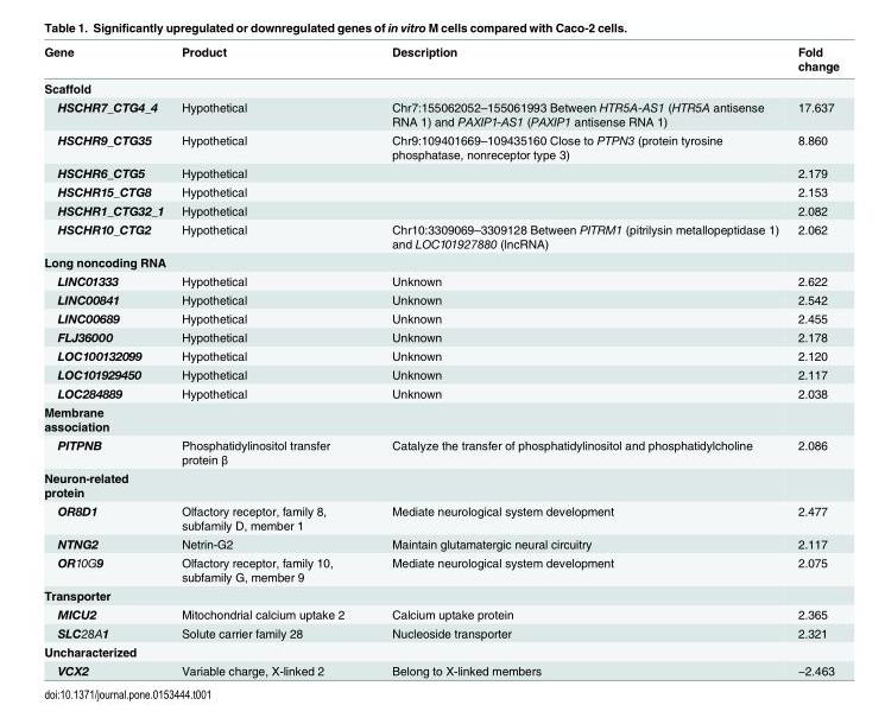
<table><thead><tr><td>Gene</td><td>Product</td><td>Description</td><td>Fold change</td></tr></thead><tbody><tr><td colspan="4">Scaffold</td></tr><tr><td>HSCHR7_CTG4_4</td><td>Hypothetical</td><td>Chr7:155062052–155061993 Between HTR5A-AS1 (HTR5A antisense RNA 1) and PAXIP1-AS1 (PAXIP1 antisense RNA 1)</td><td>17.637</td></tr><tr><td>HSCHR9_CTG35</td><td>Hypothetical</td><td>Chr9:109401669–109435160 Close to PTPN3 (protein tyrosine phosphatase, nonreceptor type 3)</td><td>8.860</td></tr><tr><td>HSCHR6_CTG5</td><td>Hypothetical</td><td></td><td>2.179</td></tr><tr><td>HSCHR15_CTG8</td><td>Hypothetical</td><td></td><td>2.153</td></tr><tr><td>HSCHR1_CTG32_1</td><td>Hypothetical</td><td></td><td>2.082</td></tr><tr><td>HSCHR10_CTG2</td><td>Hypothetical</td><td>Chr10:3309069–3309128 Between PITRM1 (pitrilysin metallopeptidase 1) and LOC101927880 (lncRNA)</td><td>2.062</td></tr><tr><td colspan="4">Long noncoding RNA</td></tr><tr><td>LINC01333</td><td>Hypothetical</td><td>Unknown</td><td>2.622</td></tr><tr><td>LINC00841</td><td>Hypothetical</td><td>Unknown</td><td>2.542</td></tr><tr><td>LINC00689</td><td>Hypothetical</td><td>Unknown</td><td>2.455</td></tr><tr><td>FLJ36000</td><td>Hypothetical</td><td>Unknown</td><td>2.178</td></tr><tr><td>LOC100132099</td><td>Hypothetical</td><td>Unknown</td><td>2.120</td></tr><tr><td>LOC101929450</td><td>Hypothetical</td><td>Unknown</td><td>2.117</td></tr><tr><td>LOC284889</td><td>Hypothetical</td><td>Unknown</td><td>2.038</td></tr><tr><td colspan="4">Membrane association</td></tr><tr><td>PITPNB</td><td>Phosphatidylinositol transfer protein β</td><td>Catalyze the transfer of phosphatidylinositol and phosphatidylcholine</td><td>2.086</td></tr><tr><td colspan="4">Neuron-related protein</td></tr><tr><td>OR8D1</td><td>Olfactory receptor, family 8, subfamily D, member 1</td><td>Mediate neurological system development</td><td>2.477</td></tr><tr><td>NTNG2</td><td>Netrin-G2</td><td>Maintain glutamatergic neural circuitry</td><td>2.117</td></tr><tr><td>OR10G9</td><td>Olfactory receptor, family 10, subfamily G, member 9</td><td>Mediate neurological system development</td><td>2.075</td></tr><tr><td colspan="4">Transporter</td></tr><tr><td>MICU2</td><td>Mitochondrial calcium uptake 2</td><td>Calcium uptake protein</td><td>2.365</td></tr><tr><td>SLC28A1</td><td>Solute carrier family 28</td><td>Nucleoside transporter</td><td>2.321</td></tr><tr><td colspan="4">Uncharacterized</td></tr><tr><td>VCX2</td><td>Variable charge, X-linked 2</td><td>Belong to X-linked members</td><td>−2.463</td></tr></tbody></table>